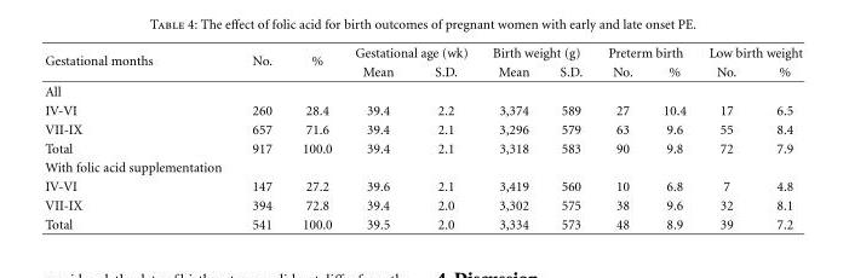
<table><thead><tr><td rowspan="2">Gestational months</td><td rowspan="2">No.</td><td rowspan="2">%</td><td colspan="2">Gestational age (wk)</td><td colspan="2">Birth weight (g)</td><td colspan="2">Preterm birth</td><td colspan="2">Low birth weight</td></tr><tr><td>Mean</td><td>S.D.</td><td>Mean</td><td>S.D.</td><td>No.</td><td>%</td><td>No.</td><td>%</td></tr></thead><tbody><tr><td colspan="11">All</td></tr><tr><td>IV-VI</td><td>260</td><td>28.4</td><td>39.4</td><td>2.2</td><td>3,374</td><td>589</td><td>27</td><td>10.4</td><td>17</td><td>6.5</td></tr><tr><td>VII-IX</td><td>657</td><td>71.6</td><td>39.4</td><td>2.1</td><td>3,296</td><td>579</td><td>63</td><td>9.6</td><td>55</td><td>8.4</td></tr><tr><td>Total</td><td>917</td><td>100.0</td><td>39.4</td><td>2.1</td><td>3,318</td><td>583</td><td>90</td><td>9.8</td><td>72</td><td>7.9</td></tr><tr><td colspan="11">With folic acid supplementation</td></tr><tr><td>IV-VI</td><td>147</td><td>27.2</td><td>39.6</td><td>2.1</td><td>3,419</td><td>560</td><td>10</td><td>6.8</td><td>7</td><td>4.8</td></tr><tr><td>VII-IX</td><td>394</td><td>72.8</td><td>39.4</td><td>2.0</td><td>3,302</td><td>575</td><td>38</td><td>9.6</td><td>32</td><td>8.1</td></tr><tr><td>Total</td><td>541</td><td>100.0</td><td>39.5</td><td>2.0</td><td>3,334</td><td>573</td><td>48</td><td>8.9</td><td>39</td><td>7.2</td></tr></tbody></table>